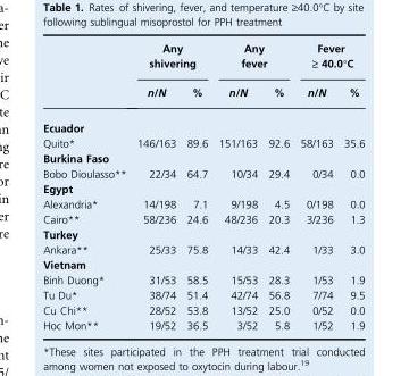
<table><thead><tr><td rowspan="2"></td><td colspan="2">Any shivering</td><td colspan="2">Any fever</td><td colspan="2">Fever ‡‡ 40.0�C</td></tr><tr><td>n/N</td><td>%</td><td>n/N</td><td>%</td><td>n/N</td><td>%</td></tr></thead><tbody><tr><td colspan="7">Ecuador</td></tr><tr><td>Quito*</td><td>146/163</td><td>89.6</td><td>151/163</td><td>92.6</td><td>58/163</td><td>35.6</td></tr><tr><td colspan="7">Burkina Faso</td></tr><tr><td>Bobo Dioulasso**</td><td>22/34</td><td>64.7</td><td>10/34</td><td>29.4</td><td>0/34</td><td>0.0</td></tr><tr><td colspan="7">Egypt</td></tr><tr><td>Alexandria*</td><td>14/198</td><td>7.1</td><td>9/198</td><td>4.5</td><td>0/198</td><td>0.0</td></tr><tr><td>Cairo**</td><td>58/236</td><td>24.6</td><td>48/236</td><td>20.3</td><td>3/236</td><td>1.3</td></tr><tr><td colspan="7">Turkey</td></tr><tr><td>Ankara**</td><td>25/33</td><td>75.8</td><td>14/33</td><td>42.4</td><td>1/33</td><td>3.0</td></tr><tr><td colspan="7">Vietnam</td></tr><tr><td>Binh Duong*</td><td>31/53</td><td>58.5</td><td>15/53</td><td>28.3</td><td>1/53</td><td>1.9</td></tr><tr><td>Tu Du*</td><td>38/74</td><td>51.4</td><td>42/74</td><td>56.8</td><td>7/74</td><td>9.5</td></tr><tr><td>Cu Chi**</td><td>28/52</td><td>53.8</td><td>13/52</td><td>25.0</td><td>0/52</td><td>0.0</td></tr><tr><td>Hoc Mon**</td><td>19/52</td><td>36.5</td><td>3/52</td><td>5.8</td><td>1/52</td><td>1.9</td></tr></tbody></table>